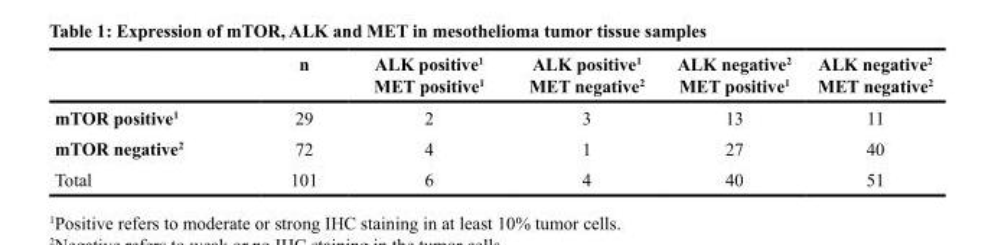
<table><thead><tr><td></td><td>n</td><td>ALK positive<sup>1</sup> MET positive<sup>1</sup></td><td>ALK positive<sup>1</sup> MET negative<sup>2</sup></td><td>ALK negative<sup>2</sup> MET positive<sup>1</sup></td><td>ALK negative<sup>2</sup> MET negative<sup>2</sup></td></tr></thead><tbody><tr><td>mTOR positive<sup>1</sup></td><td>29</td><td>2</td><td>3</td><td>13</td><td>11</td></tr><tr><td>mTOR negative<sup>2</sup></td><td>72</td><td>4</td><td>1</td><td>27</td><td>40</td></tr><tr><td>Total</td><td>101</td><td>6</td><td>4</td><td>40</td><td>51</td></tr></tbody></table>